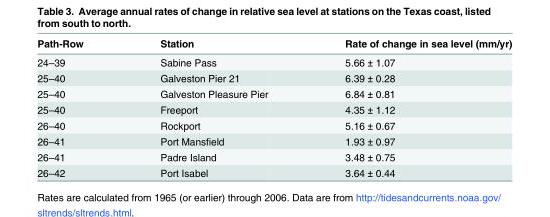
<table><thead><tr><td>Path-Row</td><td>Station</td><td>Rate of change in sea level (mm/yr)</td></tr></thead><tbody><tr><td>24–39</td><td>Sabine Pass</td><td>5.66 ± 1.07</td></tr><tr><td>25–40</td><td>Galveston Pier 21</td><td>6.39 ± 0.28</td></tr><tr><td>25–40</td><td>Galveston Pleasure Pier</td><td>6.84 ± 0.81</td></tr><tr><td>25–40</td><td>Freeport</td><td>4.35 ± 1.12</td></tr><tr><td>26–40</td><td>Rockport</td><td>5.16 ± 0.67</td></tr><tr><td>26–41</td><td>Port Mansfield</td><td>1.93 ± 0.97</td></tr><tr><td>26–41</td><td>Padre Island</td><td>3.48 ± 0.75</td></tr><tr><td>26–42</td><td>Port Isabel</td><td>3.64 ± 0.44</td></tr></tbody></table>